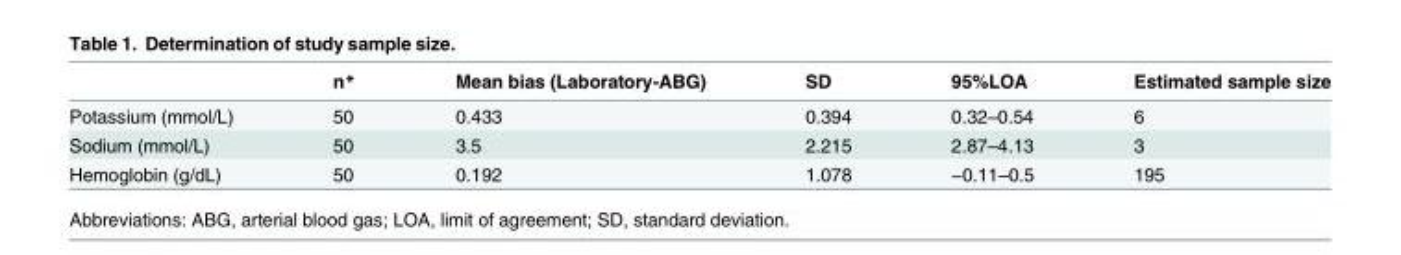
<table><thead><tr><td></td><td>n*</td><td>Mean bias (Laboratory-ABG)</td><td>SD</td><td>95%LOA</td><td>Estimated sample size</td></tr></thead><tbody><tr><td>Potassium (mmol/L)</td><td>50</td><td>0.433</td><td>0.394</td><td>0.32–0.54</td><td>6</td></tr><tr><td>Sodium (mmol/L)</td><td>50</td><td>3.5</td><td>2.215</td><td>2.87–4.13</td><td>3</td></tr><tr><td>Hemoglobin (g/dL)</td><td>50</td><td>0.192</td><td>1.078</td><td>−0.11–0.5</td><td>195</td></tr></tbody></table>